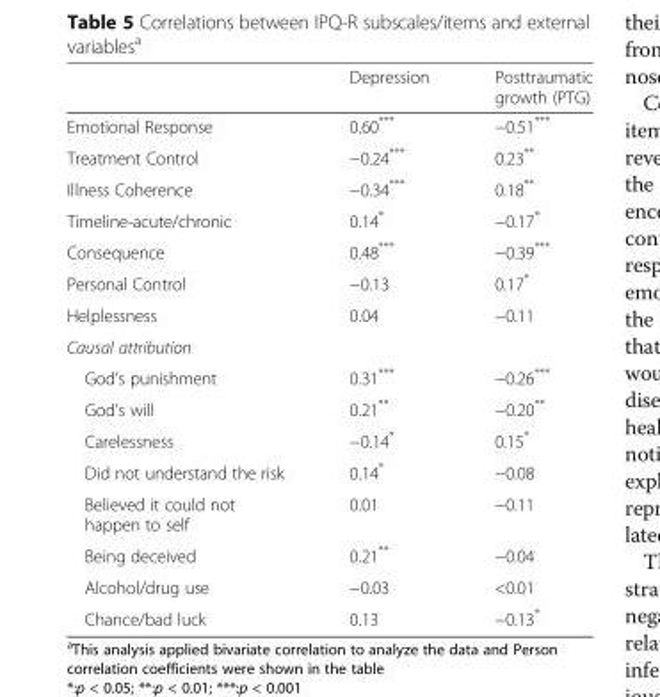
<table><thead><tr><td></td><td>Depression</td><td>Posttraumatic growth (PTG)</td></tr></thead><tbody><tr><td>Emotional Response</td><td>0.60***</td><td>−0.51***</td></tr><tr><td>Treatment Control</td><td>−0.24***</td><td>0.23**</td></tr><tr><td>Illness Coherence</td><td>−0.34***</td><td>0.18**</td></tr><tr><td>Timeline-acute/chronic</td><td>0.14*</td><td>−0.17*</td></tr><tr><td>Consequence</td><td>0.48***</td><td>−0.39***</td></tr><tr><td>Personal Control</td><td>−0.13</td><td>0.17*</td></tr><tr><td>Helplessness</td><td>0.04</td><td>−0.11</td></tr><tr><td colspan="3">Causal attribution</td></tr><tr><td>God’s punishment</td><td>0.31***</td><td>−0.26***</td></tr><tr><td>God’s will</td><td>0.21**</td><td>−0.20**</td></tr><tr><td>Carelessness</td><td>−0.14*</td><td>0.15*</td></tr><tr><td>Did not understand the risk</td><td>0.14*</td><td>−0.08</td></tr><tr><td>Believed it could not happen to self</td><td>0.01</td><td>−0.11</td></tr><tr><td>Being deceived</td><td>0.21**</td><td>−0.04</td></tr><tr><td>Alcohol/drug use</td><td>−0.03</td><td>&lt;0.01</td></tr><tr><td>Chance/bad luck</td><td>0.13</td><td>−0.13*</td></tr></tbody></table>